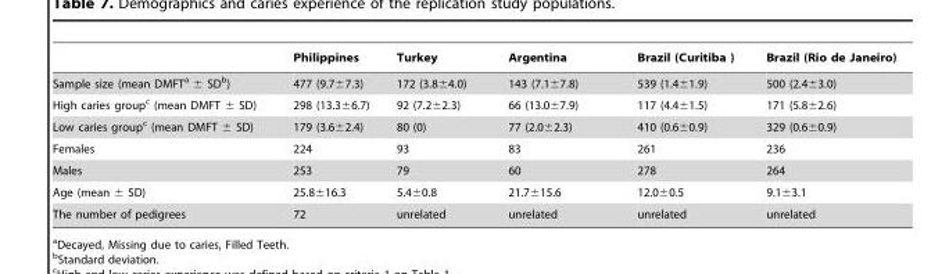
<table><thead><tr><td></td><td>Philippines</td><td>Turkey</td><td>Argentina</td><td>Brazil (Curitiba )</td><td>Brazil (Rio de Janeiro)</td></tr></thead><tbody><tr><td>Sample size (mean DMFT<sup>a</sup> ± SD<sup>b</sup>)</td><td>477 (9.7±7.3)</td><td>172 (3.8±4.0)</td><td>143 (7.1±7.8)</td><td>539 (1.4±1.9)</td><td>500 (2.4±3.0)</td></tr><tr><td>High caries group<sup>c</sup> (mean DMFT ± SD)</td><td>298 (13.3±6.7)</td><td>92 (7.2±2.3)</td><td>66 (13.0±7.9)</td><td>117 (4.4±1.5)</td><td>171 (5.8±2.6)</td></tr><tr><td>Low caries group<sup>c</sup> (mean DMFT ± SD)</td><td>179 (3.6±2.4)</td><td>80 (0)</td><td>77 (2.0±2.3)</td><td>410 (0.6±0.9)</td><td>329 (0.6±0.9)</td></tr><tr><td>Females</td><td>224</td><td>93</td><td>83</td><td>261</td><td>236</td></tr><tr><td>Males</td><td>253</td><td>79</td><td>60</td><td>278</td><td>264</td></tr><tr><td>Age (mean ± SD)</td><td>25.8±16.3</td><td>5.4±0.8</td><td>21.7±15.6</td><td>12.0±0.5</td><td>9.1±3.1</td></tr><tr><td>The number of pedigrees</td><td>72</td><td>unrelated</td><td>unrelated</td><td>unrelated</td><td>unrelated</td></tr></tbody></table>